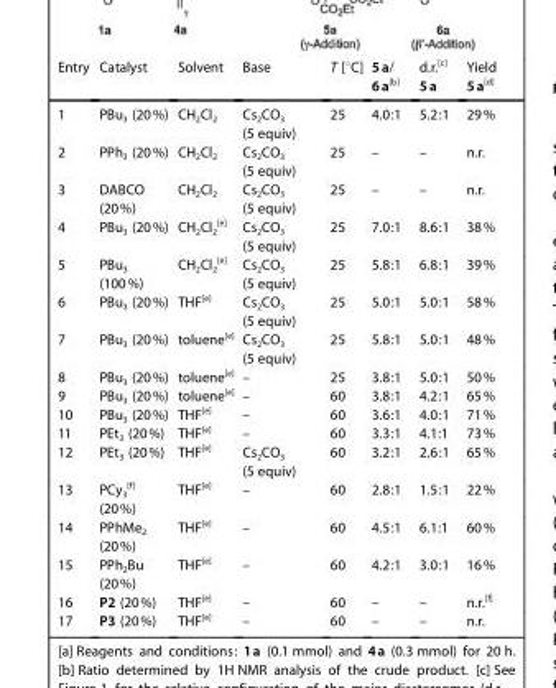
<table><thead><tr><td>Entry</td><td>Catalyst</td><td>Solvent</td><td>Base</td><td>T [°C]</td><td>5a/ 6a<sup>[b]</sup></td><td>d.r.<sup>[c]</sup> 5a</td><td>Yield 5a<sup>[d]</sup></td></tr></thead><tbody><tr><td>1</td><td>PBu<sub>3</sub> (20%)</td><td>CH<sub>2</sub>Cl<sub>2</sub></td><td>Cs<sub>2</sub>CO<sub>3</sub> (5 equiv)</td><td>25</td><td>4.0:1</td><td>5.2:1</td><td>29%</td></tr><tr><td>2</td><td>PPh<sub>3</sub> (20%)</td><td>CH<sub>2</sub>Cl<sub>2</sub></td><td>Cs<sub>2</sub>CO<sub>3</sub> (5 equiv)</td><td>25</td><td>–</td><td>–</td><td>n.r.</td></tr><tr><td>3</td><td>DABCO (20%)</td><td>CH<sub>2</sub>Cl<sub>2</sub></td><td>Cs<sub>2</sub>CO<sub>3</sub> (5 equiv)</td><td>25</td><td>–</td><td>–</td><td>n.r.</td></tr><tr><td>4</td><td>PBu<sub>3</sub> (20%)</td><td>CH<sub>2</sub>Cl<sub>2</sub> <sup>[e]</sup></td><td>Cs<sub>2</sub>CO<sub>3</sub> (5 equiv)</td><td>25</td><td>7.0:1</td><td>8.6:1</td><td>38%</td></tr><tr><td>5</td><td>PBu<sub>3</sub> (100%)</td><td>CH<sub>2</sub>Cl<sub>2</sub> <sup>[e]</sup></td><td>Cs<sub>2</sub>CO<sub>3</sub> (5 equiv)</td><td>25</td><td>5.8:1</td><td>6.8:1</td><td>39%</td></tr><tr><td>6</td><td>PBu<sub>3</sub> (20%)</td><td>THF<sup>[e]</sup></td><td>Cs<sub>2</sub>CO<sub>3</sub> (5 equiv)</td><td>25</td><td>5.0:1</td><td>5.0:1</td><td>58%</td></tr><tr><td>7</td><td>PBu<sub>3</sub> (20%)</td><td>toluene<sup>[e]</sup></td><td>Cs<sub>2</sub>CO<sub>3</sub> (5 equiv)</td><td>25</td><td>5.8:1</td><td>5.0:1</td><td>48%</td></tr><tr><td>8</td><td>PBu<sub>3</sub> (20%)</td><td>toluene<sup>[e]</sup></td><td>–</td><td>25</td><td>3.8:1</td><td>5.0:1</td><td>50%</td></tr><tr><td>9</td><td>PBu<sub>3</sub> (20%)</td><td>toluene<sup>[e]</sup></td><td>–</td><td>60</td><td>3.8:1</td><td>4.2:1</td><td>65%</td></tr><tr><td>10</td><td>PBu<sub>3</sub> (20%)</td><td>THF<sup>[e]</sup></td><td>–</td><td>60</td><td>3.6:1</td><td>4.0:1</td><td>71%</td></tr><tr><td>11</td><td>PEt<sub>3</sub> (20%)</td><td>THF<sup>[e]</sup></td><td>–</td><td>60</td><td>3.3:1</td><td>4.1:1</td><td>73%</td></tr><tr><td>12</td><td>PEt<sub>3</sub> (20%)</td><td>THF<sup>[e]</sup></td><td>Cs<sub>2</sub>CO<sub>3</sub> (5 equiv)</td><td>60</td><td>3.2:1</td><td>2.6:1</td><td>65%</td></tr><tr><td>13</td><td>PCy<sub>3</sub> <sup>[f]</sup> (20%)</td><td>THF<sup>[e]</sup></td><td>–</td><td>60</td><td>2.8:1</td><td>1.5:1</td><td>22%</td></tr><tr><td>14</td><td>PPhMe<sub>2</sub> (20%)</td><td>THF<sup>[e]</sup></td><td>–</td><td>60</td><td>4.5:1</td><td>6.1:1</td><td>60%</td></tr><tr><td>15</td><td>PPh<sub>2</sub>Bu (20%)</td><td>THF<sup>[e]</sup></td><td>–</td><td>60</td><td>4.2:1</td><td>3.0:1</td><td>16%</td></tr><tr><td>16</td><td>P2 (20%)</td><td>THF<sup>[e]</sup></td><td>–</td><td>60</td><td>–</td><td>–</td><td>n.r.<sup>[f]</sup></td></tr><tr><td>17</td><td>P3 (20%)</td><td>THF<sup>[e]</sup></td><td>–</td><td>60</td><td>–</td><td>–</td><td>n.r.</td></tr></tbody></table>